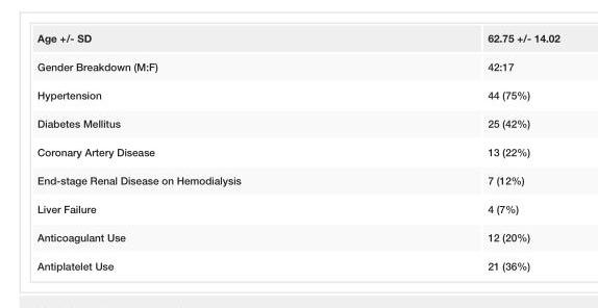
<table><tbody><tr><td>Age +/- SD</td><td>62.75 +/- 14.02</td></tr><tr><td>Gender Breakdown (M:F)</td><td>42:17</td></tr><tr><td>Hypertension</td><td>44 (75%)</td></tr><tr><td>Diabetes Mellitus</td><td>25 (42%)</td></tr><tr><td>Coronary Artery Disease</td><td>13 (22%)</td></tr><tr><td>End-stage Renal Disease on Hemodialysis</td><td>7 (12%)</td></tr><tr><td>Liver Failure</td><td>4 (7%)</td></tr><tr><td>Anticoagulant Use</td><td>12 (20%)</td></tr><tr><td>Antiplatelet Use</td><td>21 (36%)</td></tr></tbody></table>